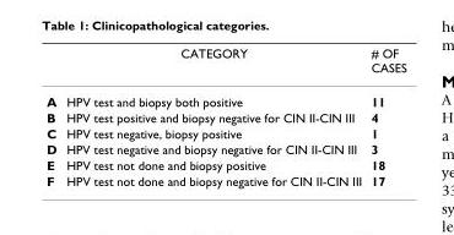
<table><thead><tr><td></td><td>CATEGORY</td><td># OF CASES</td></tr></thead><tbody><tr><td>A</td><td>HPV test and biopsy both positive</td><td>11</td></tr><tr><td>B</td><td>HPV test positive and biopsy negative for CIN II-CIN III</td><td>4</td></tr><tr><td>C</td><td>HPV test negative, biopsy positive</td><td>1</td></tr><tr><td>D</td><td>HPV test negative and biopsy negative for CIN II-CIN III</td><td>3</td></tr><tr><td>E</td><td>HPV test not done and biopsy positive</td><td>18</td></tr><tr><td>F</td><td>HPV test not done and biopsy negative for CIN II-CIN III</td><td>17</td></tr></tbody></table>